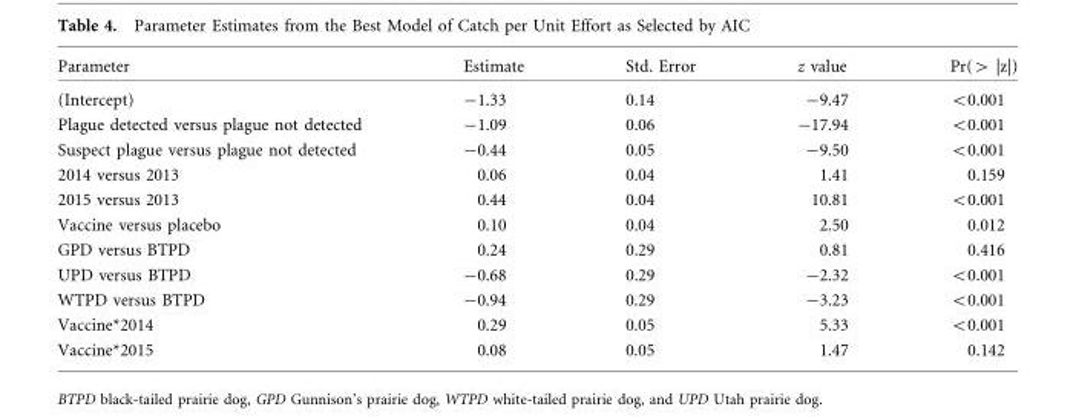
<table><thead><tr><td>Parameter</td><td>Estimate</td><td>Std. Error</td><td>z value</td><td>Pr(&gt; |z|)</td></tr></thead><tbody><tr><td>(Intercept)</td><td>-1.33</td><td>0.14</td><td>-9.47</td><td>&lt;0.001</td></tr><tr><td>Plague detected versus plague not detected</td><td>-1.09</td><td>0.06</td><td>-17.94</td><td>&lt;0.001</td></tr><tr><td>Suspect plague versus plague not detected</td><td>-0.44</td><td>0.05</td><td>-9.50</td><td>&lt;0.001</td></tr><tr><td>2014 versus 2013</td><td>0.06</td><td>0.04</td><td>1.41</td><td>0.159</td></tr><tr><td>2015 versus 2013</td><td>0.44</td><td>0.04</td><td>10.81</td><td>&lt;0.001</td></tr><tr><td>Vaccine versus placebo</td><td>0.10</td><td>0.04</td><td>2.50</td><td>0.012</td></tr><tr><td>GPD versus BTPD</td><td>0.24</td><td>0.29</td><td>0.81</td><td>0.416</td></tr><tr><td>UPD versus BTPD</td><td>-0.68</td><td>0.29</td><td>-2.32</td><td>&lt;0.001</td></tr><tr><td>WTPD versus BTPD</td><td>-0.94</td><td>0.29</td><td>-3.23</td><td>&lt;0.001</td></tr><tr><td>Vaccine*2014</td><td>0.29</td><td>0.05</td><td>5.33</td><td>&lt;0.001</td></tr><tr><td>Vaccine*2015</td><td>0.08</td><td>0.05</td><td>1.47</td><td>0.142</td></tr></tbody></table>